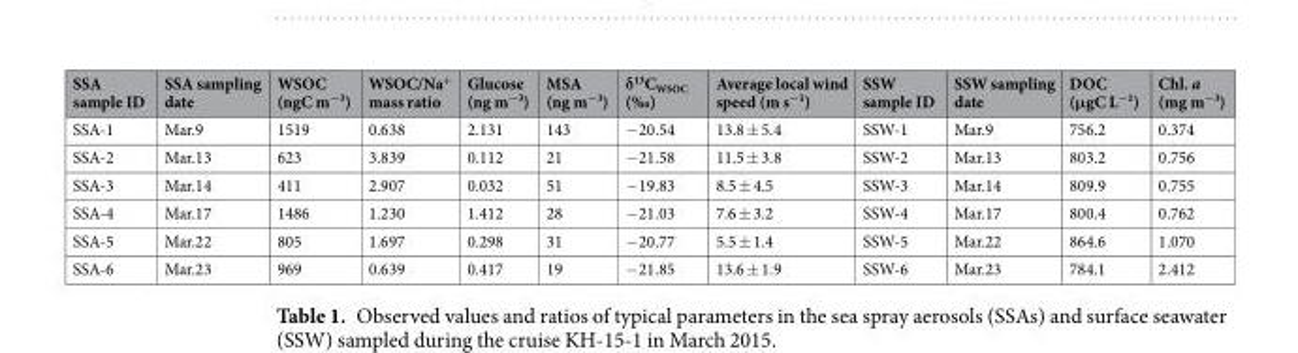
<table><thead><tr><td>SSA sample ID</td><td>SSA sampling date</td><td>WSOC (ngC m<sup>−3</sup>)</td><td>WSOC/Na<sup>+</sup> mass ratio</td><td>Glucose (ng m<sup>−3</sup>)</td><td>MSA (ng m<sup>−3</sup>)</td><td>δ<sup>13</sup>C<sub>WSOC</sub> (‰)</td><td>Average local wind speed (m s<sup>−1</sup>)</td><td>SSW sample ID</td><td>SSW sampling date</td><td>DOC (μgC L<sup>−1</sup>)</td><td>Chl. a (mg m<sup>−3</sup>)</td></tr></thead><tbody><tr><td>SSA-1</td><td>Mar.9</td><td>1519</td><td>0.638</td><td>2.131</td><td>143</td><td>−20.54</td><td>13.8 ± 5.4</td><td>SSW-1</td><td>Mar.9</td><td>756.2</td><td>0.374</td></tr><tr><td>SSA-2</td><td>Mar.13</td><td>623</td><td>3.839</td><td>0.112</td><td>21</td><td>−21.58</td><td>11.5 ± 3.8</td><td>SSW-2</td><td>Mar.13</td><td>803.2</td><td>0.756</td></tr><tr><td>SSA-3</td><td>Mar.14</td><td>411</td><td>2.907</td><td>0.032</td><td>51</td><td>−19.83</td><td>8.5 ± 4.5</td><td>SSW-3</td><td>Mar.14</td><td>809.9</td><td>0.755</td></tr><tr><td>SSA-4</td><td>Mar.17</td><td>1486</td><td>1.230</td><td>1.412</td><td>28</td><td>−21.03</td><td>7.6 ± 3.2</td><td>SSW-4</td><td>Mar.17</td><td>800.4</td><td>0.762</td></tr><tr><td>SSA-5</td><td>Mar.22</td><td>805</td><td>1.697</td><td>0.298</td><td>31</td><td>−20.77</td><td>5.5 ± 1.4</td><td>SSW-5</td><td>Mar.22</td><td>864.6</td><td>1.070</td></tr><tr><td>SSA-6</td><td>Mar.23</td><td>969</td><td>0.639</td><td>0.417</td><td>19</td><td>−21.85</td><td>13.6 ± 1.9</td><td>SSW-6</td><td>Mar.23</td><td>784.1</td><td>2.412</td></tr></tbody></table>